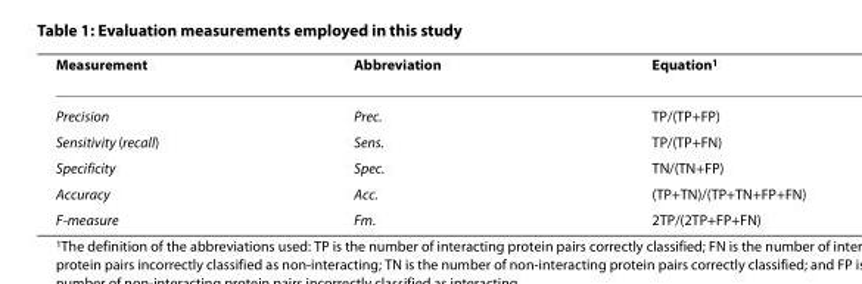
<table><thead><tr><td>Measurement</td><td>Abbreviation</td><td>Equation<sup>1</sup></td></tr></thead><tbody><tr><td>Precision</td><td>Prec.</td><td>TP/(TP+FP)</td></tr><tr><td>Sensitivity (recall)</td><td>Sens.</td><td>TP/(TP+FN)</td></tr><tr><td>Specificity</td><td>Spec.</td><td>TN/(TN+FP)</td></tr><tr><td>Accuracy</td><td>Acc.</td><td>(TP+TN)/(TP+TN+FP+FN)</td></tr><tr><td>F-measure</td><td>Fm.</td><td>2TP/(2TP+FP+FN)</td></tr></tbody></table>